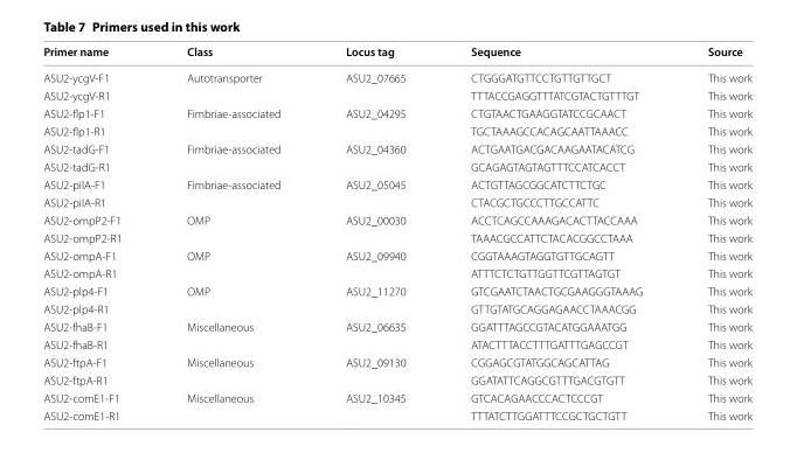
<table><thead><tr><td>Primer name</td><td>Class</td><td>Locus tag</td><td>Sequence</td><td>Source</td></tr></thead><tbody><tr><td>ASU2-ycgV-F1</td><td rowspan="2">Autotransporter</td><td rowspan="2">ASU2_07665</td><td>CTGGGATGTTCCTGTTGTTGCT</td><td>This work</td></tr><tr><td>ASU2-ycgV-R1</td><td>TTTACCGAGGTTTATCGTACTGTTTGT</td><td>This work</td></tr><tr><td>ASU2-flp1-F1</td><td rowspan="2">Fimbriae-associated</td><td rowspan="2">ASU2_04295</td><td>CTGTAACTGAAGGTATCCGCAACT</td><td>This work</td></tr><tr><td>ASU2-flp1-R1</td><td>TGCTAAAGCCACAGCAATTAAACC</td><td>This work</td></tr><tr><td>ASU2-tadG-F1</td><td rowspan="2">Fimbriae-associated</td><td rowspan="2">ASU2_04360</td><td>ACTGAATGACGACAAGAATACATCG</td><td>This work</td></tr><tr><td>ASU2-tadG-R1</td><td>GCAGAGTAGTAGTTTCCATCACCT</td><td>This work</td></tr><tr><td>ASU2-pilA-F1</td><td rowspan="2">Fimbriae-associated</td><td rowspan="2">ASU2_05045</td><td>ACTGTTAGCGGCATCTTCTGC</td><td>This work</td></tr><tr><td>ASU2-pilA-R1</td><td>CTACGCTGCCCTTGCCATTC</td><td>This work</td></tr><tr><td>ASU2-ompP2-F1</td><td rowspan="2">OMP</td><td rowspan="2">ASU2_00030</td><td>ACCTCAGCCAAAGACACTTACCAAA</td><td>This work</td></tr><tr><td>ASU2-ompP2-R1</td><td>TAAACGCCATTCTACACGGCCTAAA</td><td>This work</td></tr><tr><td>ASU2-ompA-F1</td><td rowspan="2">OMP</td><td rowspan="2">ASU2_09940</td><td>CGGTAAAGTAGGTGTTGCAGTT</td><td>This work</td></tr><tr><td>ASU2-ompA-R1</td><td>ATTTCTCTGTTGGTTCGTTAGTGT</td><td>This work</td></tr><tr><td>ASU2-plp4-F1</td><td rowspan="2">OMP</td><td rowspan="2">ASU2_11270</td><td>GTCGAATCTAACTGCGAAGGGTAAAG</td><td>This work</td></tr><tr><td>ASU2-plp4-R1</td><td>GTTGTATGCAGGAGAACCTAAACGG</td><td>This work</td></tr><tr><td>ASU2-fhaB-F1</td><td rowspan="2">Miscellaneous</td><td rowspan="2">ASU2_06635</td><td>GGATTTAGCCGTACATGGAAATGG</td><td>This work</td></tr><tr><td>ASU2-fhaB-R1</td><td>ATACTTTACCTTTGATTTGAGCCGT</td><td>This work</td></tr><tr><td>ASU2-ftpA-F1</td><td rowspan="2">Miscellaneous</td><td rowspan="2">ASU2_09130</td><td>CGGAGCGTATGGCAGCATTAG</td><td>This work</td></tr><tr><td>ASU2-ftpA-R1</td><td>GGATATTCAGGCGTTTGACGTGTT</td><td>This work</td></tr><tr><td>ASU2-comE1-F1</td><td rowspan="2">Miscellaneous</td><td rowspan="2">ASU2_10345</td><td>GTCACAGAACCCACTCCCGT</td><td>This work</td></tr><tr><td>ASU2-comE1-R1</td><td>TTTATCTTGGATTTCCGCTGCTGTT</td><td>This work</td></tr></tbody></table>